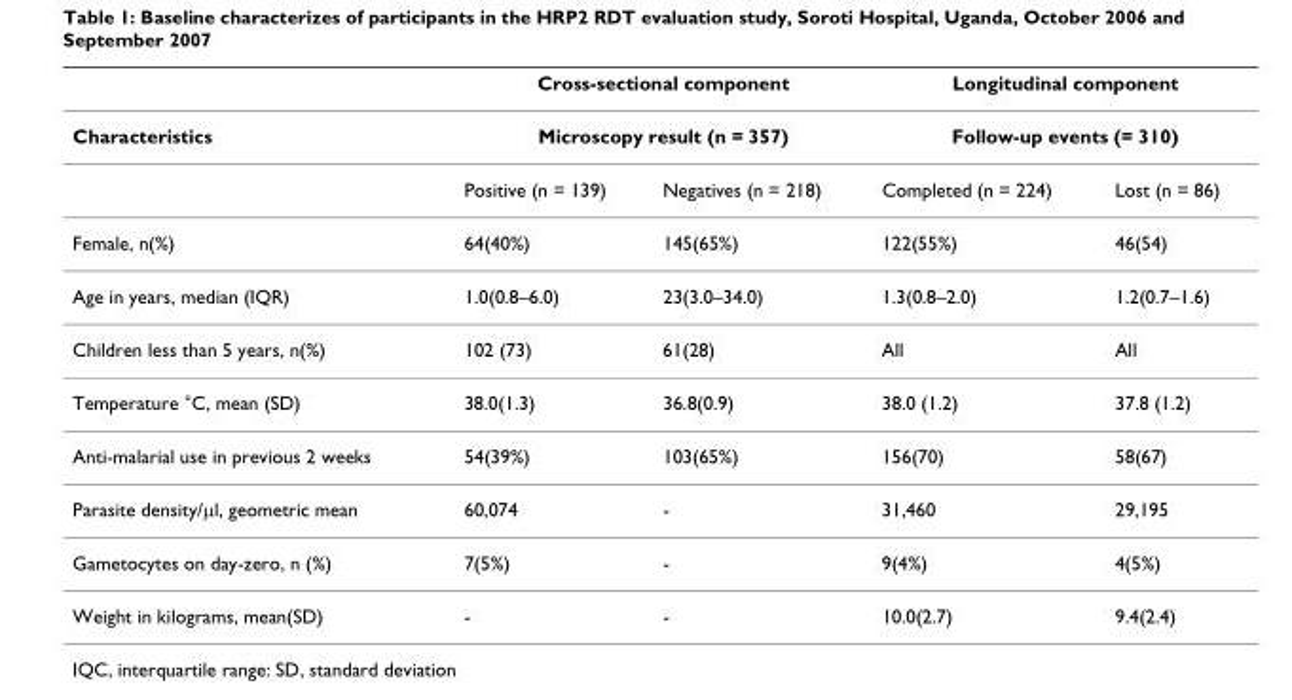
<table><thead><tr><td rowspan="3">Characteristics</td><td rowspan="2" colspan="2">Cross-sectional component Microscopy result (n = 357)</td><td rowspan="2" colspan="2">Longitudinal component Follow-up events (= 310)</td></tr><tr></tr><tr><td>Positive (n = 139)</td><td>Negatives (n = 218)</td><td>Completed (n = 224)</td><td>Lost (n = 86)</td></tr></thead><tbody><tr><td>Female, n(%)</td><td>64(40%)</td><td>145(65%)</td><td>122(55%)</td><td>46(54)</td></tr><tr><td>Age in years, median (IQR)</td><td>1.0(0.8–6.0)</td><td>23(3.0–34.0)</td><td>1.3(0.8–2.0)</td><td>1.2(0.7–1.6)</td></tr><tr><td>Children less than 5 years, n(%)</td><td>102 (73)</td><td>61(28)</td><td>All</td><td>All</td></tr><tr><td>Temperature °C, mean (SD)</td><td>38.0(1.3)</td><td>36.8(0.9)</td><td>38.0 (1.2)</td><td>37.8 (1.2)</td></tr><tr><td>Anti-malarial use in previous 2 weeks</td><td>54(39%)</td><td>103(65%)</td><td>156(70)</td><td>58(67)</td></tr><tr><td>Parasite density/μl, geometric mean</td><td>60,074</td><td>-</td><td>31,460</td><td>29,195</td></tr><tr><td>Gametocytes on day-zero, n (%)</td><td>7(5%)</td><td>-</td><td>9(4%)</td><td>4(5%)</td></tr><tr><td>Weight in kilograms, mean(SD)</td><td>-</td><td>-</td><td>10.0(2.7)</td><td>9.4(2.4)</td></tr></tbody></table>